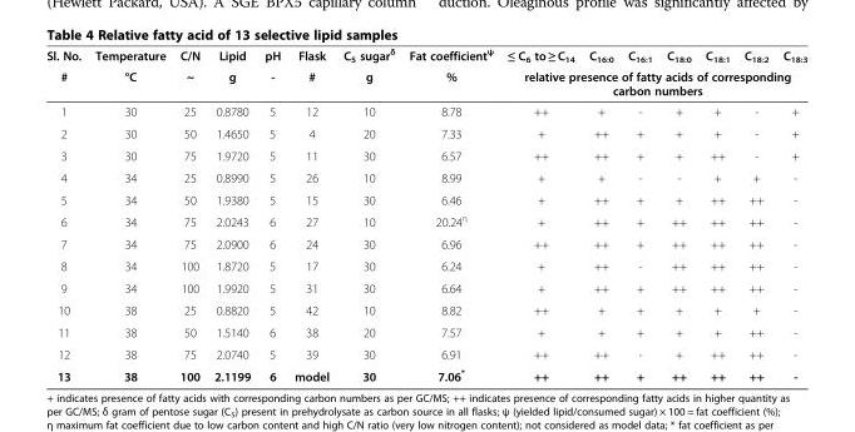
<table><thead><tr><td rowspan="2">Sl. No. #</td><td rowspan="2">Temperature °C</td><td rowspan="2">C/N ~</td><td rowspan="2">Lipid g</td><td rowspan="2">pH -</td><td rowspan="2">Flask #</td><td rowspan="2">C<sub>5</sub> sugar<sup>δ</sup> g</td><td rowspan="2">Fat coefficient<sup>ψ</sup> %</td><td>≤ C<sub>6</sub> to ≥ C<sub>14</sub></td><td>C<sub>16:0</sub></td><td>C<sub>16:1</sub></td><td>C<sub>18:0</sub></td><td>C<sub>18:1</sub></td><td>C<sub>18:2</sub></td><td>C<sub>18:3</sub></td></tr><tr><td colspan="7">relative presence of fatty acids of corresponding carbon numbers</td></tr></thead><tbody><tr><td>1</td><td>30</td><td>25</td><td>0.8780</td><td>5</td><td>12</td><td>10</td><td>8.78</td><td>++</td><td>+</td><td>-</td><td>+</td><td>+</td><td>-</td><td>+</td></tr><tr><td>2</td><td>30</td><td>50</td><td>1.4650</td><td>5</td><td>4</td><td>20</td><td>7.33</td><td>+</td><td>++</td><td>+</td><td>+</td><td>+</td><td>-</td><td>+</td></tr><tr><td>3</td><td>30</td><td>75</td><td>1.9720</td><td>5</td><td>11</td><td>30</td><td>6.57</td><td>++</td><td>++</td><td>+</td><td>+</td><td>++</td><td>-</td><td>+</td></tr><tr><td>4</td><td>34</td><td>25</td><td>0.8990</td><td>5</td><td>26</td><td>10</td><td>8.99</td><td>+</td><td>+</td><td>-</td><td>-</td><td>+</td><td>+</td><td>-</td></tr><tr><td>5</td><td>34</td><td>50</td><td>1.9380</td><td>5</td><td>15</td><td>30</td><td>6.46</td><td>+</td><td>++</td><td>+</td><td>+</td><td>++</td><td>++</td><td>-</td></tr><tr><td>6</td><td>34</td><td>75</td><td>2.0243</td><td>6</td><td>27</td><td>10</td><td>20.24<sup>η</sup></td><td>+</td><td>++</td><td>+</td><td>++</td><td>++</td><td>++</td><td>-</td></tr><tr><td>7</td><td>34</td><td>75</td><td>2.0900</td><td>6</td><td>24</td><td>30</td><td>6.96</td><td>++</td><td>++</td><td>+</td><td>++</td><td>++</td><td>++</td><td>-</td></tr><tr><td>8</td><td>34</td><td>100</td><td>1.8720</td><td>5</td><td>17</td><td>30</td><td>6.24</td><td>+</td><td>++</td><td>-</td><td>++</td><td>++</td><td>++</td><td>-</td></tr><tr><td>9</td><td>34</td><td>100</td><td>1.9920</td><td>5</td><td>31</td><td>30</td><td>6.64</td><td>+</td><td>++</td><td>+</td><td>++</td><td>++</td><td>++</td><td>-</td></tr><tr><td>10</td><td>38</td><td>25</td><td>0.8820</td><td>5</td><td>42</td><td>10</td><td>8.82</td><td>++</td><td>+</td><td>+</td><td>+</td><td>+</td><td>+</td><td>-</td></tr><tr><td>11</td><td>38</td><td>50</td><td>1.5140</td><td>6</td><td>38</td><td>20</td><td>7.57</td><td>+</td><td>+</td><td>+</td><td>+</td><td>+</td><td>++</td><td>-</td></tr><tr><td>12</td><td>38</td><td>75</td><td>2.0740</td><td>5</td><td>39</td><td>30</td><td>6.91</td><td>++</td><td>++</td><td>-</td><td>+</td><td>++</td><td>++</td><td>-</td></tr><tr><td>13</td><td>38</td><td>100</td><td>2.1199</td><td>6</td><td>model</td><td>30</td><td>7.06*</td><td>++</td><td>++</td><td>+</td><td>++</td><td>++</td><td>++</td><td>-</td></tr></tbody></table>